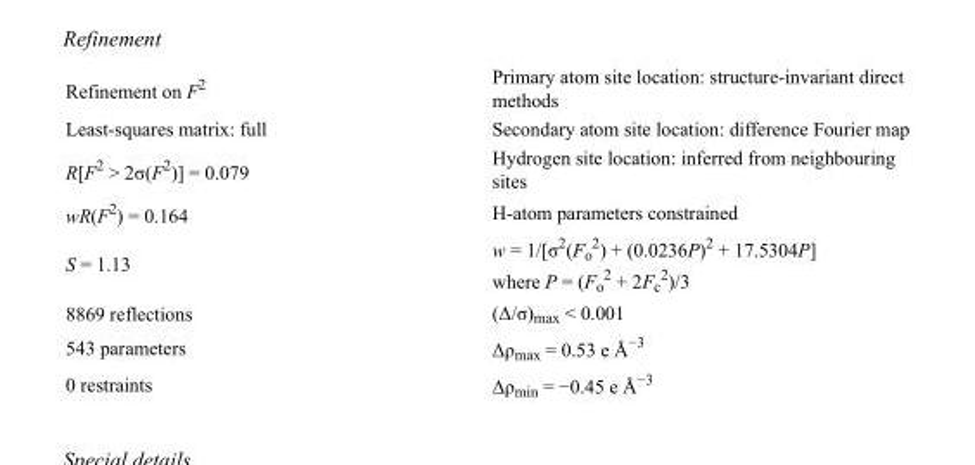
<table><tbody><tr><td>Refinement on F<sup>2</sup></td><td>Primary atom site location: structure-invariant direct methods</td></tr><tr><td>Least-squares matrix: full</td><td>Secondary atom site location: difference Fourier map</td></tr><tr><td>R[F<sup>2</sup> &gt; 2σ(F<sup>2</sup>)] = 0.079</td><td>Hydrogen site location: inferred from neighbouring sites</td></tr><tr><td>wR(F<sup>2</sup>) = 0.164</td><td>H-atom parameters constrained</td></tr><tr><td>S = 1.13</td><td>w = 1/[σ<sup>2</sup>(F<sub>o</sub> <sup>2</sup>) + (0.0236P)<sup>2</sup> + 17.5304P] where P = (F<sub>o</sub> <sup>2</sup> + 2F<sub>c</sub> <sup>2</sup>)/3</td></tr><tr><td>8869 reflections</td><td>(Δ/σ)<sub>max</sub> &lt; 0.001</td></tr><tr><td>543 parameters</td><td>Δρ<sub>max</sub> = 0.53 e Å<sup>−3</sup></td></tr><tr><td>0 restraints</td><td>Δρ<sub>min</sub> = −0.45 e Å<sup>−3</sup></td></tr></tbody></table>